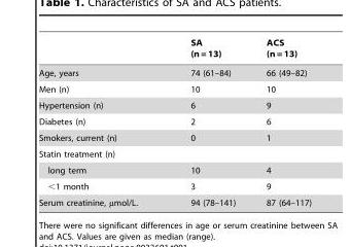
<table><thead><tr><td></td><td>SA (n = 13)</td><td>ACS (n = 13)</td></tr></thead><tbody><tr><td>Age, years</td><td>74 (61–84)</td><td>66 (49–82)</td></tr><tr><td>Men (n)</td><td>10</td><td>10</td></tr><tr><td>Hypertension (n)</td><td>6</td><td>9</td></tr><tr><td>Diabetes (n)</td><td>2</td><td>6</td></tr><tr><td>Smokers, current (n)</td><td>0</td><td>1</td></tr><tr><td colspan="3">Statin treatment (n)</td></tr><tr><td>long term</td><td>10</td><td>4</td></tr><tr><td>&lt;1 month</td><td>3</td><td>9</td></tr><tr><td>Serum creatinine, µmol/L.</td><td>94 (78–141)</td><td>87 (64–117)</td></tr></tbody></table>